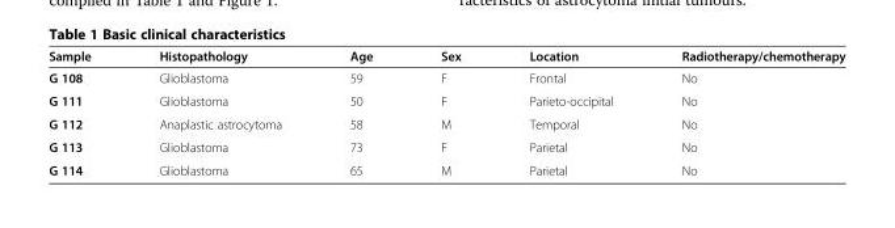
<table><thead><tr><td>Sample</td><td>Histopathology</td><td>Age</td><td>Sex</td><td>Location</td><td>Radiotherapy/chemotherapy</td></tr></thead><tbody><tr><td>G 108</td><td>Glioblastoma</td><td>59</td><td>F</td><td>Frontal</td><td>No</td></tr><tr><td>G 111</td><td>Glioblastoma</td><td>50</td><td>F</td><td>Parieto-occipital</td><td>No</td></tr><tr><td>G 112</td><td>Anaplastic astrocytoma</td><td>58</td><td>M</td><td>Temporal</td><td>No</td></tr><tr><td>G 113</td><td>Glioblastoma</td><td>73</td><td>F</td><td>Parietal</td><td>No</td></tr><tr><td>G 114</td><td>Glioblastoma</td><td>65</td><td>M</td><td>Parietal</td><td>No</td></tr></tbody></table>